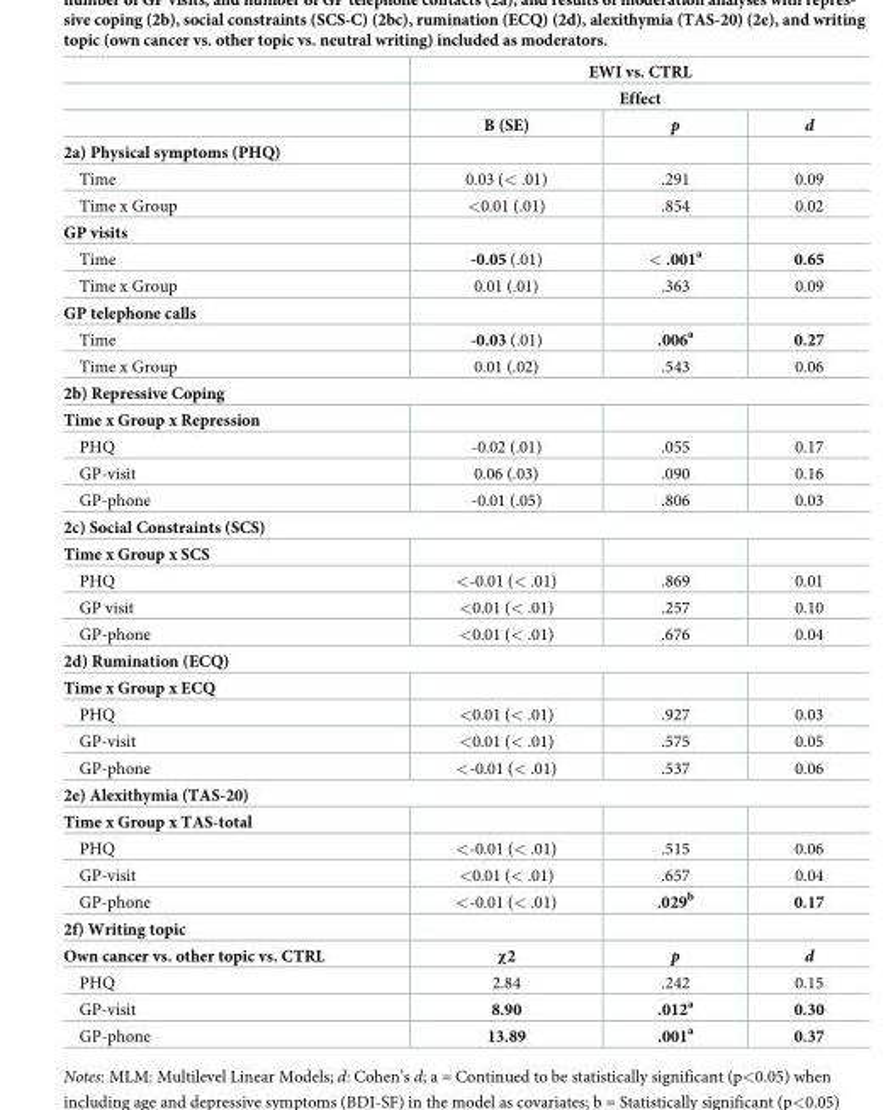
<table><thead><tr><td rowspan="3"></td><td rowspan="2" colspan="3">EWI vs. CTRL Effect</td></tr><tr></tr><tr><td>B (SE)</td><td>p</td><td>d</td></tr></thead><tbody><tr><td colspan="4">2a) Physical symptoms (PHQ)</td></tr><tr><td>Time</td><td>0.03 (&lt; .01)</td><td>.291</td><td>0.09</td></tr><tr><td>Time x Group</td><td>&lt;0.01 (.01)</td><td>.854</td><td>0.02</td></tr><tr><td colspan="4">GP visits</td></tr><tr><td>Time</td><td>-0.05 (.01)</td><td>&lt; .001<sup>a</sup></td><td>0.65</td></tr><tr><td>Time x Group</td><td>0.01 (.01)</td><td>.363</td><td>0.09</td></tr><tr><td colspan="4">GP telephone calls</td></tr><tr><td>Time</td><td>-0.03 (.01)</td><td>.006<sup>a</sup></td><td>0.27</td></tr><tr><td>Time x Group</td><td>0.01 (.02)</td><td>.543</td><td>0.06</td></tr><tr><td colspan="4">2b) Repressive Coping</td></tr><tr><td colspan="4">Time x Group x Repression</td></tr><tr><td>PHQ</td><td>-0.02 (.01)</td><td>.055</td><td>0.17</td></tr><tr><td>GP-visit</td><td>0.06 (.03)</td><td>.090</td><td>0.16</td></tr><tr><td>GP-phone</td><td>-0.01 (.05)</td><td>.806</td><td>0.03</td></tr><tr><td colspan="4">2c) Social Constraints (SCS)</td></tr><tr><td colspan="4">Time x Group x SCS</td></tr><tr><td>PHQ</td><td>&lt;-0.01 (&lt; .01)</td><td>.869</td><td>0.01</td></tr><tr><td>GP visit</td><td>&lt;0.01 (&lt; .01)</td><td>.257</td><td>0.10</td></tr><tr><td>GP-phone</td><td>&lt;0.01 (&lt; .01)</td><td>.676</td><td>0.04</td></tr><tr><td colspan="4">2d) Rumination (ECQ)</td></tr><tr><td colspan="4">Time x Group x ECQ</td></tr><tr><td>PHQ</td><td>&lt;0.01 (&lt; .01)</td><td>.927</td><td>0.03</td></tr><tr><td>GP-visit</td><td>&lt;0.01 (&lt; .01)</td><td>.575</td><td>0.05</td></tr><tr><td>GP-phone</td><td>&lt;-0.01 (&lt; .01)</td><td>.537</td><td>0.06</td></tr><tr><td colspan="4">2e) Alexithymia (TAS-20)</td></tr><tr><td colspan="4">Time x Group x TAS-total</td></tr><tr><td>PHQ</td><td>&lt;-0.01 (&lt; .01)</td><td>.515</td><td>0.06</td></tr><tr><td>GP-visit</td><td>&lt;0.01 (&lt; .01)</td><td>.657</td><td>0.04</td></tr><tr><td>GP-phone</td><td>&lt;-0.01 (&lt; .01)</td><td>.029<sup>b</sup></td><td>0.17</td></tr><tr><td colspan="4">2f) Writing topic</td></tr><tr><td>Own cancer vs. other topic vs. CTRL</td><td>χ2</td><td>p</td><td>d</td></tr><tr><td>PHQ</td><td>2.84</td><td>.242</td><td>0.15</td></tr><tr><td>GP-visit</td><td>8.90</td><td>.012<sup>a</sup></td><td>0.30</td></tr><tr><td>GP-phone</td><td>13.89</td><td>.001<sup>a</sup></td><td>0.37</td></tr></tbody></table>